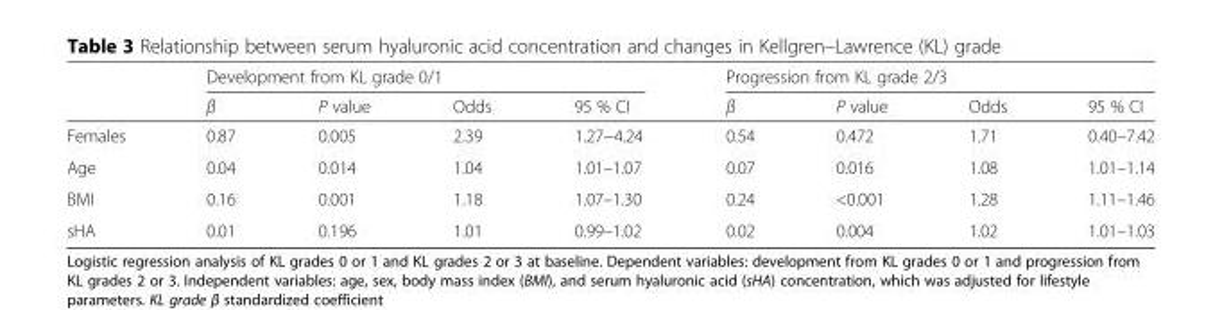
<table><thead><tr><td rowspan="2"></td><td colspan="4">Development from KL grade 0/1</td><td colspan="4">Progression from KL grade 2/3</td></tr><tr><td>β</td><td>P value</td><td>Odds</td><td>95 % CI</td><td>β</td><td>P value</td><td>Odds</td><td>95 % CI</td></tr></thead><tbody><tr><td>Females</td><td>0.87</td><td>0.005</td><td>2.39</td><td>1.27−4.24</td><td>0.54</td><td>0.472</td><td>1.71</td><td>0.40–7.42</td></tr><tr><td>Age</td><td>0.04</td><td>0.014</td><td>1.04</td><td>1.01–1.07</td><td>0.07</td><td>0.016</td><td>1.08</td><td>1.01–1.14</td></tr><tr><td>BMI</td><td>0.16</td><td>0.001</td><td>1.18</td><td>1.07–1.30</td><td>0.24</td><td>&lt;0.001</td><td>1.28</td><td>1.11–1.46</td></tr><tr><td>sHA</td><td>0.01</td><td>0.196</td><td>1.01</td><td>0.99–1.02</td><td>0.02</td><td>0.004</td><td>1.02</td><td>1.01–1.03</td></tr></tbody></table>